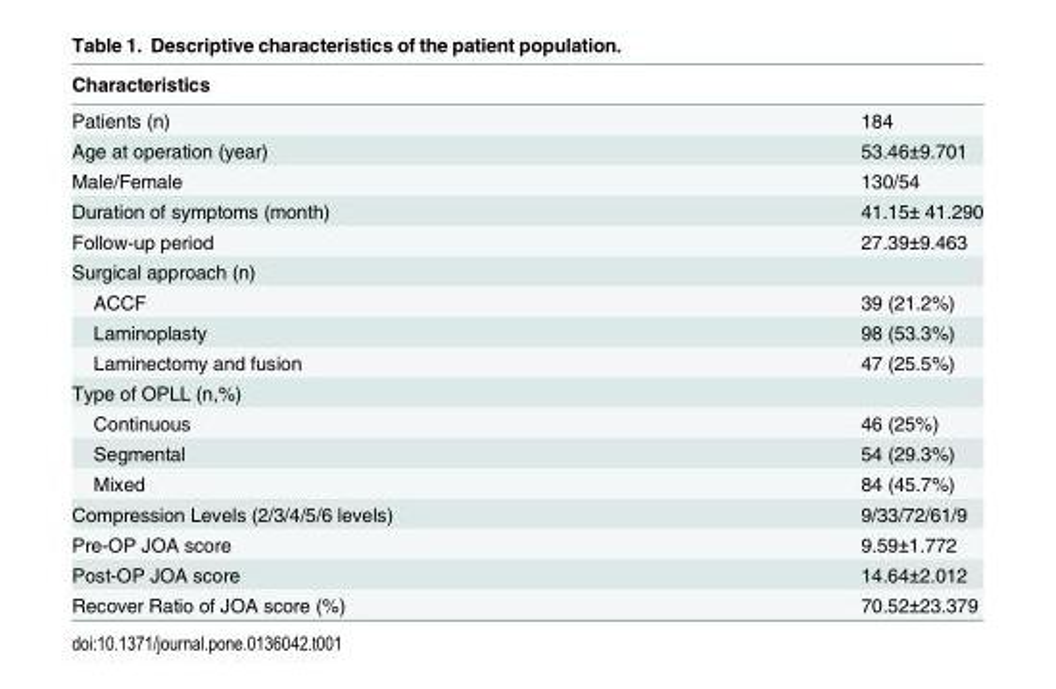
<table><thead><tr><td>Characteristics</td><td></td></tr></thead><tbody><tr><td>Patients (n)</td><td>184</td></tr><tr><td>Age at operation (year)</td><td>53.46±9.701</td></tr><tr><td>Male/Female</td><td>130/54</td></tr><tr><td>Duration of symptoms (month)</td><td>41.15± 41.290</td></tr><tr><td>Follow-up period</td><td>27.39±9.463</td></tr><tr><td colspan="2">Surgical approach (n)</td></tr><tr><td>ACCF</td><td>39 (21.2%)</td></tr><tr><td>Laminoplasty</td><td>98 (53.3%)</td></tr><tr><td>Laminectomy and fusion</td><td>47 (25.5%)</td></tr><tr><td colspan="2">Type of OPLL (n,%)</td></tr><tr><td>Continuous</td><td>46 (25%)</td></tr><tr><td>Segmental</td><td>54 (29.3%)</td></tr><tr><td>Mixed</td><td>84 (45.7%)</td></tr><tr><td>Compression Levels (2/3/4/5/6 levels)</td><td>9/33/72/61/9</td></tr><tr><td>Pre-OP JOA score</td><td>9.59±1.772</td></tr><tr><td>Post-OP JOA score</td><td>14.64±2.012</td></tr><tr><td>Recover Ratio of JOA score (%)</td><td>70.52±23.379</td></tr></tbody></table>